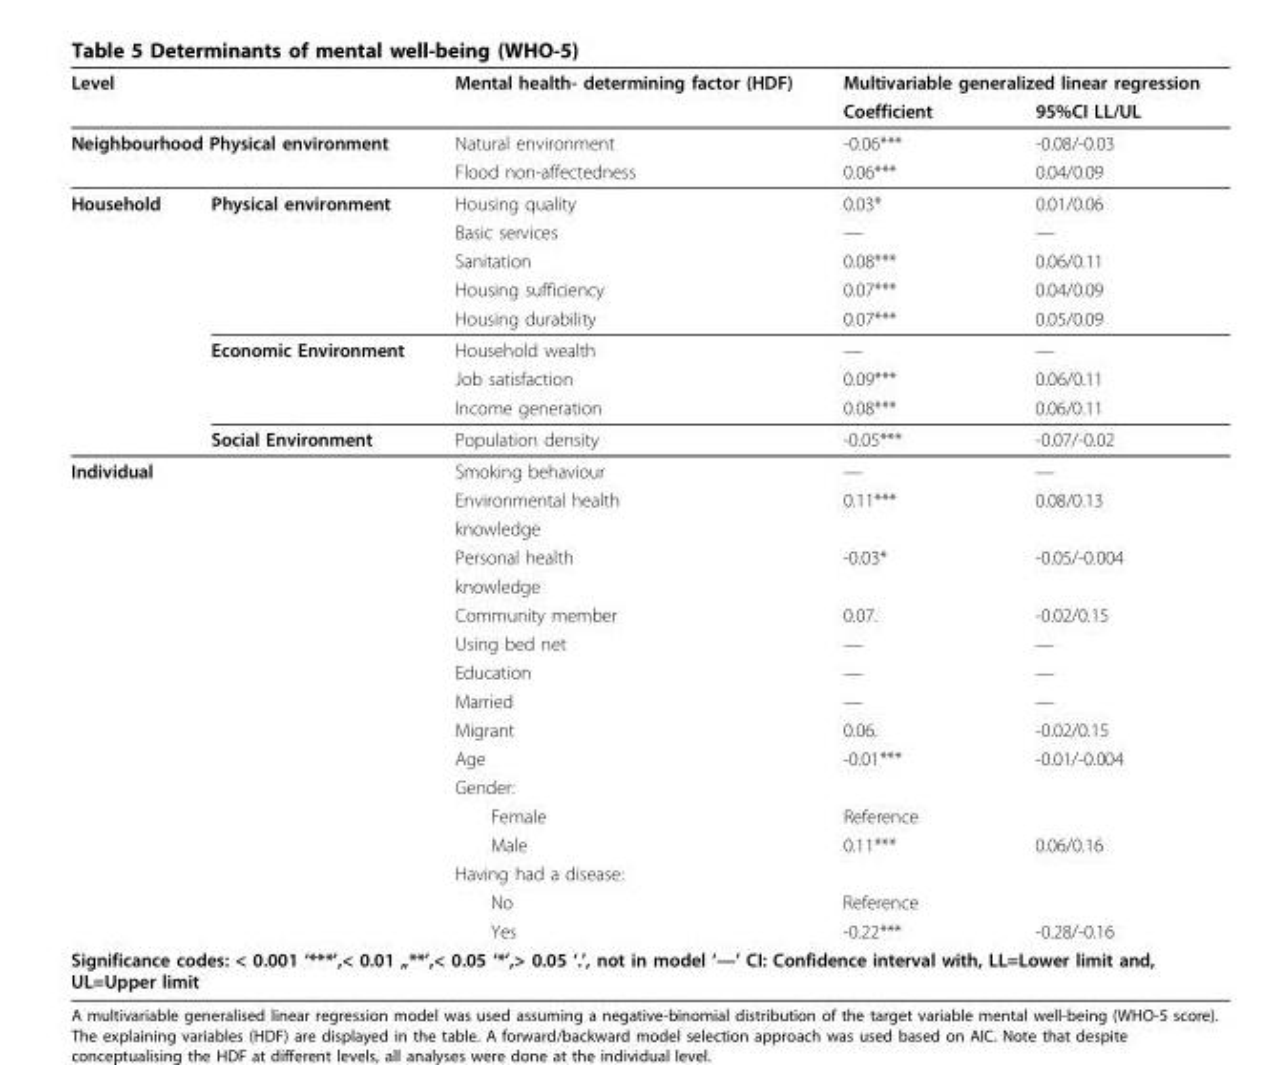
<table><thead><tr><td rowspan="2">Level</td><td rowspan="2"></td><td rowspan="2">Mental health- determining factor (HDF)</td><td colspan="2">Multivariable generalized linear regression</td></tr><tr><td>Coefficient</td><td>95%CI LL/UL</td></tr></thead><tbody><tr><td rowspan="2" colspan="2">Neighbourhood Physical environment</td><td>Natural environment</td><td>-0.06***</td><td>-0.08/-0.03</td></tr><tr><td>Flood non-affectedness</td><td>0.06***</td><td>0.04/0.09</td></tr><tr><td rowspan="9">Household</td><td>Physical environment</td><td>Housing quality</td><td>0.03*</td><td>0.01/0.06</td></tr><tr><td></td><td>Basic services</td><td>—</td><td>—</td></tr><tr><td></td><td>Sanitation</td><td>0.08***</td><td>0.06/0.11</td></tr><tr><td></td><td>Housing sufficiency</td><td>0.07***</td><td>0.04/0.09</td></tr><tr><td></td><td>Housing durability</td><td>0.07***</td><td>0.05/0.09</td></tr><tr><td>Economic Environment</td><td>Household wealth</td><td>—</td><td>—</td></tr><tr><td></td><td>Job satisfaction</td><td>0.09***</td><td>0.06/0.11</td></tr><tr><td></td><td>Income generation</td><td>0.08***</td><td>0.06/0.11</td></tr><tr><td>Social Environment</td><td>Population density</td><td>-0.05***</td><td>-0.07/-0.02</td></tr><tr><td rowspan="17">Individual</td><td></td><td>Smoking behaviour</td><td>—</td><td>—</td></tr><tr><td></td><td>Environmental health</td><td>0.11***</td><td>0.08/0.13</td></tr><tr><td></td><td>knowledge</td><td></td><td></td></tr><tr><td></td><td>Personal health</td><td>-0.03*</td><td>-0.05/-0.004</td></tr><tr><td></td><td>knowledge</td><td></td><td></td></tr><tr><td></td><td>Community member</td><td>0.07.</td><td>-0.02/0.15</td></tr><tr><td></td><td>Using bed net</td><td>—</td><td>—</td></tr><tr><td></td><td>Education</td><td>—</td><td>—</td></tr><tr><td></td><td>Married</td><td>—</td><td>—</td></tr><tr><td></td><td>Migrant</td><td>0.06.</td><td>-0.02/0.15</td></tr><tr><td></td><td>Age</td><td>-0.01***</td><td>-0.01/-0.004</td></tr><tr><td></td><td>Gender:</td><td></td><td></td></tr><tr><td></td><td>Female</td><td>Reference</td><td></td></tr><tr><td></td><td>Male</td><td>0.11***</td><td>0.06/0.16</td></tr><tr><td></td><td>Having had a disease:</td><td></td><td></td></tr><tr><td></td><td>No</td><td>Reference</td><td></td></tr><tr><td></td><td>Yes</td><td>-0.22***</td><td>-0.28/-0.16</td></tr><tr><td colspan="5">Significance codes: &lt; 0.001 ‘***’,&lt; 0.01 „**’,&lt; 0.05 ‘*’,&gt; 0.05 ‘.’, not in model ‘—’ CI: Confidence interval with, LL=Lower limit and, UL=Upper limit</td></tr></tbody></table>